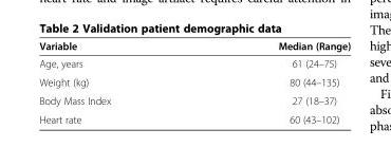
<table><thead><tr><td>Variable</td><td>Median (Range)</td></tr></thead><tbody><tr><td>Age, years</td><td>61 (24–75)</td></tr><tr><td>Weight (kg)</td><td>80 (44–135)</td></tr><tr><td>Body Mass Index</td><td>27 (18–37)</td></tr><tr><td>Heart rate</td><td>60 (43–102)</td></tr></tbody></table>